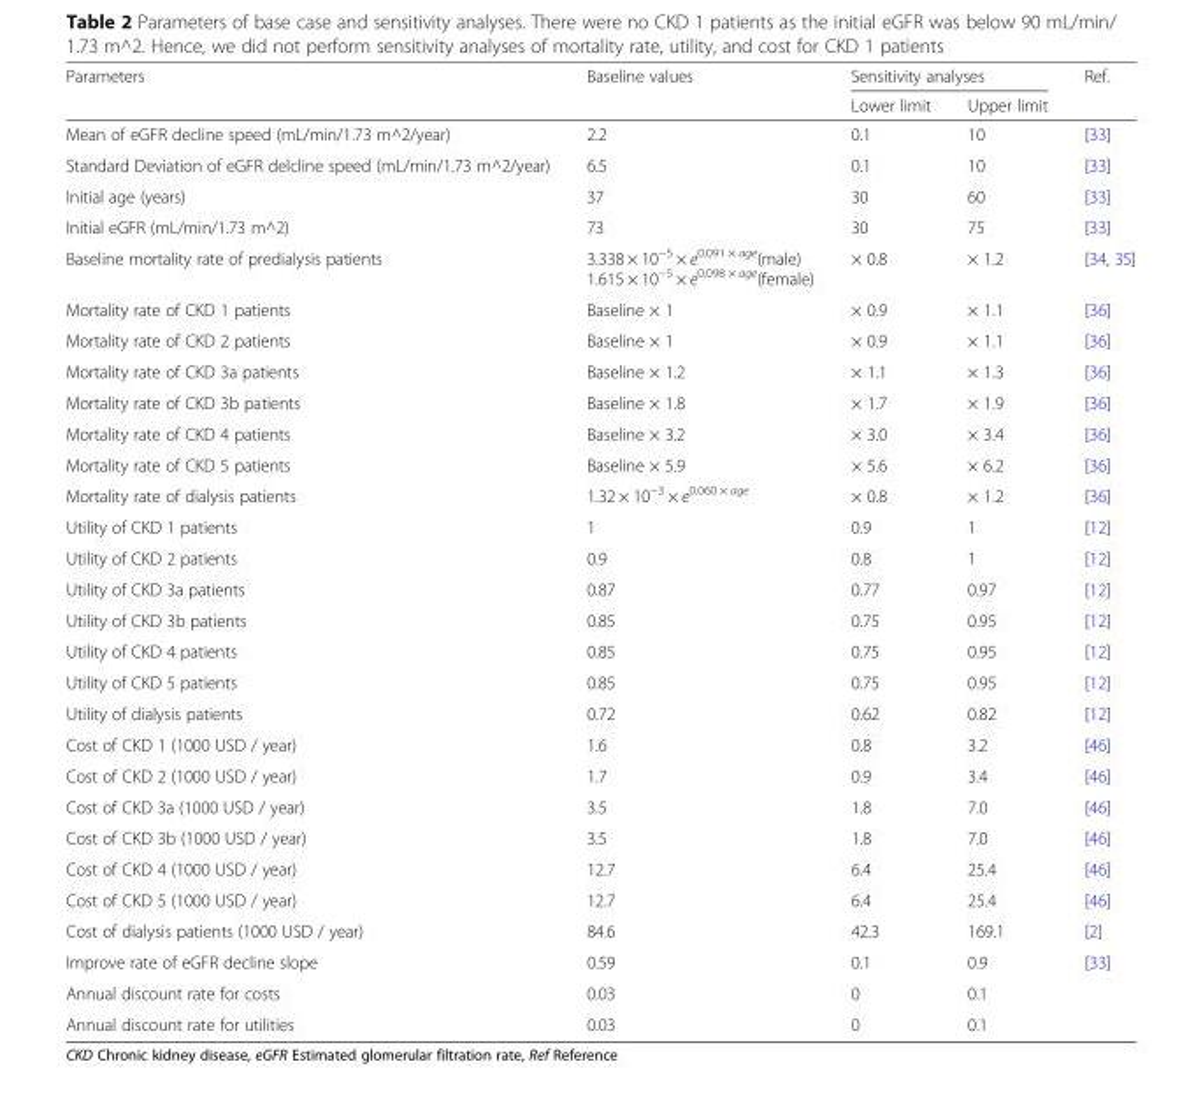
<table><thead><tr><td rowspan="2">Parameters</td><td rowspan="2">Baseline values</td><td colspan="2">Sensitivity analyses</td><td rowspan="2">Ref.</td></tr><tr><td>Lower limit</td><td>Upper limit</td></tr></thead><tbody><tr><td>Mean of eGFR decline speed (mL/min/1.73 m^2/year)</td><td>2.2</td><td>0.1</td><td>10</td><td>[33]</td></tr><tr><td>Standard Deviation of eGFR delcline speed (mL/min/1.73 m^2/year)</td><td>6.5</td><td>0.1</td><td>10</td><td>[33]</td></tr><tr><td>Initial age (years)</td><td>37</td><td>30</td><td>60</td><td>[33]</td></tr><tr><td>Initial eGFR (mL/min/1.73 m^2)</td><td>73</td><td>30</td><td>75</td><td>[33]</td></tr><tr><td>Baseline mortality rate of predialysis patients</td><td>3.338 × 10<sup>−5</sup> × e<sup>0.091 × age</sup>(male) 1.615 × 10<sup>−5</sup> × e<sup>0.098 × age</sup>(female)</td><td>× 0.8</td><td>× 1.2</td><td>[34, 35]</td></tr><tr><td>Mortality rate of CKD 1 patients</td><td>Baseline × 1</td><td>× 0.9</td><td>× 1.1</td><td>[36]</td></tr><tr><td>Mortality rate of CKD 2 patients</td><td>Baseline × 1</td><td>× 0.9</td><td>× 1.1</td><td>[36]</td></tr><tr><td>Mortality rate of CKD 3a patients</td><td>Baseline × 1.2</td><td>× 1.1</td><td>× 1.3</td><td>[36]</td></tr><tr><td>Mortality rate of CKD 3b patients</td><td>Baseline × 1.8</td><td>× 1.7</td><td>× 1.9</td><td>[36]</td></tr><tr><td>Mortality rate of CKD 4 patients</td><td>Baseline × 3.2</td><td>× 3.0</td><td>× 3.4</td><td>[36]</td></tr><tr><td>Mortality rate of CKD 5 patients</td><td>Baseline × 5.9</td><td>× 5.6</td><td>× 6.2</td><td>[36]</td></tr><tr><td>Mortality rate of dialysis patients</td><td>1.32 × 10<sup>−3</sup> × e<sup>0.060 × age</sup></td><td>× 0.8</td><td>× 1.2</td><td>[36]</td></tr><tr><td>Utility of CKD 1 patients</td><td>1</td><td>0.9</td><td>1</td><td>[12]</td></tr><tr><td>Utility of CKD 2 patients</td><td>0.9</td><td>0.8</td><td>1</td><td>[12]</td></tr><tr><td>Utility of CKD 3a patients</td><td>0.87</td><td>0.77</td><td>0.97</td><td>[12]</td></tr><tr><td>Utility of CKD 3b patients</td><td>0.85</td><td>0.75</td><td>0.95</td><td>[12]</td></tr><tr><td>Utility of CKD 4 patients</td><td>0.85</td><td>0.75</td><td>0.95</td><td>[12]</td></tr><tr><td>Utility of CKD 5 patients</td><td>0.85</td><td>0.75</td><td>0.95</td><td>[12]</td></tr><tr><td>Utility of dialysis patients</td><td>0.72</td><td>0.62</td><td>0.82</td><td>[12]</td></tr><tr><td>Cost of CKD 1 (1000 USD / year)</td><td>1.6</td><td>0.8</td><td>3.2</td><td>[46]</td></tr><tr><td>Cost of CKD 2 (1000 USD / year)</td><td>1.7</td><td>0.9</td><td>3.4</td><td>[46]</td></tr><tr><td>Cost of CKD 3a (1000 USD / year)</td><td>3.5</td><td>1.8</td><td>7.0</td><td>[46]</td></tr><tr><td>Cost of CKD 3b (1000 USD / year)</td><td>3.5</td><td>1.8</td><td>7.0</td><td>[46]</td></tr><tr><td>Cost of CKD 4 (1000 USD / year)</td><td>12.7</td><td>6.4</td><td>25.4</td><td>[46]</td></tr><tr><td>Cost of CKD 5 (1000 USD / year)</td><td>12.7</td><td>6.4</td><td>25.4</td><td>[46]</td></tr><tr><td>Cost of dialysis patients (1000 USD / year)</td><td>84.6</td><td>42.3</td><td>169.1</td><td>[2]</td></tr><tr><td>Improve rate of eGFR decline slope</td><td>0.59</td><td>0.1</td><td>0.9</td><td>[33]</td></tr><tr><td>Annual discount rate for costs</td><td>0.03</td><td>0</td><td>0.1</td><td></td></tr><tr><td>Annual discount rate for utilities</td><td>0.03</td><td>0</td><td>0.1</td><td></td></tr></tbody></table>